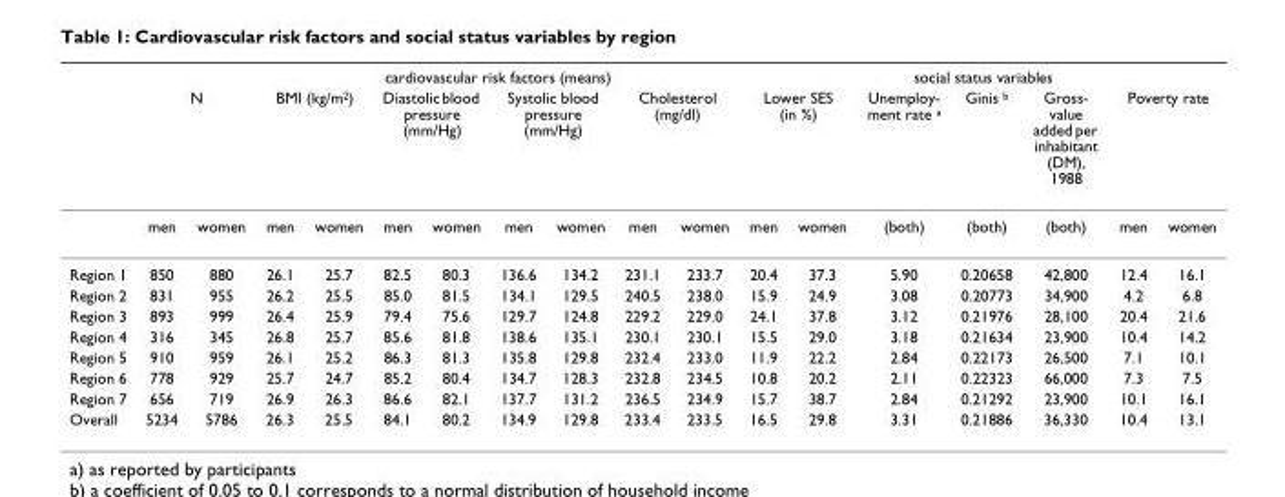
<table><thead><tr><td rowspan="3"></td><td></td><td></td><td colspan="8">cardiovascular risk factors (means)</td><td colspan="7">social status variables</td></tr><tr><td colspan="2">N</td><td colspan="2">BMI (kg/m2)</td><td colspan="2">Diastolic blood pressure (mm/Hg)</td><td colspan="2">Systolic blood pressure (mm/Hg)</td><td colspan="2">Cholesterol (mg/dl)</td><td colspan="2">Lower SES (in %)</td><td rowspan="2">Unemploy- ment rate a (both)</td><td rowspan="2">Ginis b (both)</td><td rowspan="2">Gross- value added per inhabitant (DM), 1988 (both)</td><td colspan="2">Poverty rate</td></tr><tr><td>men</td><td>women</td><td>men</td><td>women</td><td>men</td><td>women</td><td>men</td><td>women</td><td>men</td><td>women</td><td>men</td><td>women</td><td>men</td><td>women</td></tr></thead><tbody><tr><td>Region 1</td><td>850</td><td>880</td><td>26.1</td><td>25.7</td><td>82.5</td><td>80.3</td><td>136.6</td><td>134.2</td><td>231.1</td><td>233.7</td><td>20.4</td><td>37.3</td><td>5.90</td><td>0.20658</td><td>42,800</td><td>12.4</td><td>16.1</td></tr><tr><td>Region 2</td><td>831</td><td>955</td><td>26.2</td><td>25.5</td><td>85.0</td><td>81.5</td><td>134.1</td><td>129.5</td><td>240.5</td><td>238.0</td><td>15.9</td><td>24.9</td><td>3.08</td><td>0.20773</td><td>34,900</td><td>4.2</td><td>6.8</td></tr><tr><td>Region 3</td><td>893</td><td>999</td><td>26.4</td><td>25.9</td><td>79.4</td><td>75.6</td><td>129.7</td><td>124.8</td><td>229.2</td><td>229.0</td><td>24.1</td><td>37.8</td><td>3.12</td><td>0.21976</td><td>28,100</td><td>20.4</td><td>21.6</td></tr><tr><td>Region 4</td><td>316</td><td>345</td><td>26.8</td><td>25.7</td><td>85.6</td><td>81.8</td><td>138.6</td><td>135.1</td><td>230.1</td><td>230.1</td><td>15.5</td><td>29.0</td><td>3.18</td><td>0.21634</td><td>23,900</td><td>10.4</td><td>14.2</td></tr><tr><td>Region 5</td><td>910</td><td>959</td><td>26.1</td><td>25.2</td><td>86.3</td><td>81.3</td><td>135.8</td><td>129.8</td><td>232.4</td><td>233.0</td><td>11.9</td><td>22.2</td><td>2.84</td><td>0.22173</td><td>26,500</td><td>7.1</td><td>10.1</td></tr><tr><td>Region 6</td><td>778</td><td>929</td><td>25.7</td><td>24.7</td><td>85.2</td><td>80.4</td><td>134.7</td><td>128.3</td><td>232.8</td><td>234.5</td><td>10.8</td><td>20.2</td><td>2.11</td><td>0.22323</td><td>66,000</td><td>7.3</td><td>7.5</td></tr><tr><td>Region 7</td><td>656</td><td>719</td><td>26.9</td><td>26.3</td><td>86.6</td><td>82.1</td><td>137.7</td><td>131.2</td><td>236.5</td><td>234.9</td><td>15.7</td><td>38.7</td><td>2.84</td><td>0.21292</td><td>23,900</td><td>10.1</td><td>16.1</td></tr><tr><td>Overall</td><td>5234</td><td>5786</td><td>26.3</td><td>25.5</td><td>84.1</td><td>80.2</td><td>134.9</td><td>129.8</td><td>233.4</td><td>233.5</td><td>16.5</td><td>29.8</td><td>3.31</td><td>0.21886</td><td>36,330</td><td>10.4</td><td>13.1</td></tr></tbody></table>